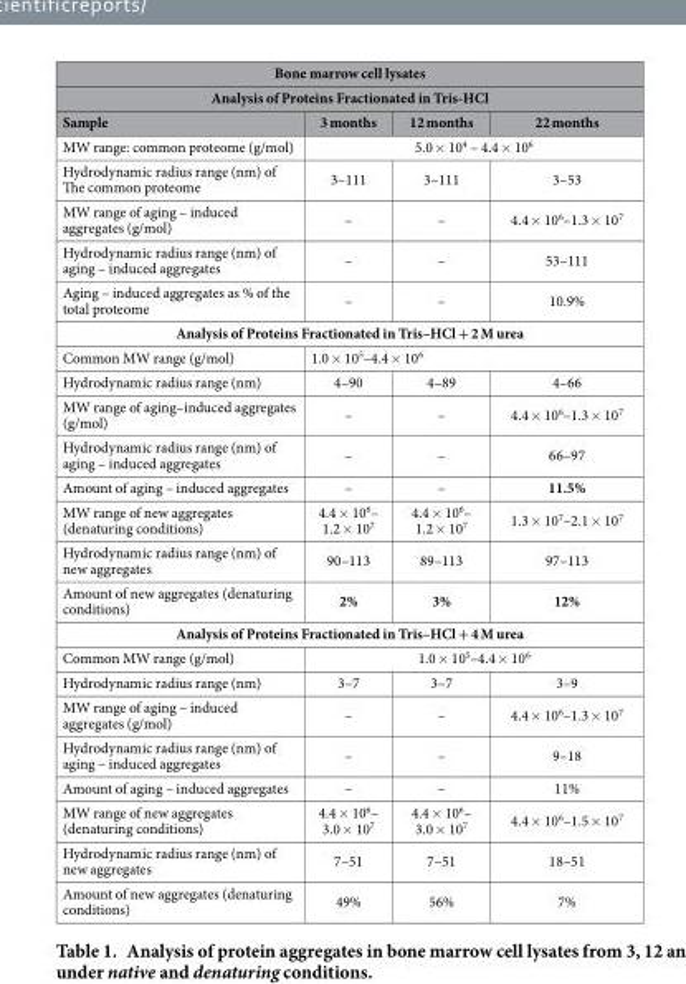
<table><thead><tr><td rowspan="2" colspan="4">Bone marrow cell lysates Analysis of Proteins Fractionated in Tris-HCl</td></tr><tr></tr><tr><td>Sample</td><td>3 months</td><td>12 months</td><td>22 months</td></tr></thead><tbody><tr><td>MW range: common proteome (g/mol)</td><td colspan="3">5.0 × 10<sup>4</sup> – 4.4 × 10<sup>6</sup></td></tr><tr><td>Hydrodynamic radius range (nm) of The common proteome</td><td>3–111</td><td>3–111</td><td>3–53</td></tr><tr><td>MW range of aging – induced aggregates (g/mol)</td><td>–</td><td>–</td><td>4.4 × 10<sup>6</sup>–1.3 × 10<sup>7</sup></td></tr><tr><td>Hydrodynamic radius range (nm) of aging – induced aggregates</td><td>–</td><td>–</td><td>53–111</td></tr><tr><td>Aging – induced aggregates as % of the total proteome</td><td>–</td><td>–</td><td>10.9%</td></tr><tr><td colspan="4">Analysis of Proteins Fractionated in Tris–HCl + 2 M urea</td></tr><tr><td>Common MW range (g/mol)</td><td colspan="3">1.0 × 10<sup>5</sup>–4.4 × 10<sup>6</sup></td></tr><tr><td>Hydrodynamic radius range (nm)</td><td>4–90</td><td>4–89</td><td>4–66</td></tr><tr><td>MW range of aging–induced aggregates (g/mol)</td><td>–</td><td>–</td><td>4.4 × 10<sup>6</sup>–1.3 × 10<sup>7</sup></td></tr><tr><td>Hydrodynamic radius range (nm) of aging – induced aggregates</td><td>–</td><td>–</td><td>66–97</td></tr><tr><td>Amount of aging – induced aggregates</td><td>–</td><td>–</td><td>11.5%</td></tr><tr><td>MW range of new aggregates (denaturing conditions)</td><td>4.4 × 10<sup>6</sup>– 1.2 × 10<sup>7</sup></td><td>4.4 × 10<sup>6</sup>– 1.2 × 10<sup>7</sup></td><td>1.3 × 10<sup>7</sup>–2.1 × 10<sup>7</sup></td></tr><tr><td>Hydrodynamic radius range (nm) of new aggregates</td><td>90–113</td><td>89–113</td><td>97–113</td></tr><tr><td>Amount of new aggregates (denaturing conditions)</td><td>2%</td><td>3%</td><td>12%</td></tr><tr><td colspan="4">Analysis of Proteins Fractionated in Tris–HCl + 4 M urea</td></tr><tr><td>Common MW range (g/mol)</td><td colspan="3">1.0 × 10<sup>5</sup>–4.4 × 10<sup>6</sup></td></tr><tr><td>Hydrodynamic radius range (nm)</td><td>3–7</td><td>3–7</td><td>3–9</td></tr><tr><td>MW range of aging – induced aggregates (g/mol)</td><td>–</td><td>–</td><td>4.4 × 10<sup>6</sup>–1.3 × 10<sup>7</sup></td></tr><tr><td>Hydrodynamic radius range (nm) of aging – induced aggregates</td><td>–</td><td>–</td><td>9–18</td></tr><tr><td>Amount of aging – induced aggregates</td><td>–</td><td>–</td><td>11%</td></tr><tr><td>MW range of new aggregates (denaturing conditions)</td><td>4.4 × 10<sup>6</sup>– 3.0 × 10<sup>7</sup></td><td>4.4 × 10<sup>6</sup>– 3.0 × 10<sup>7</sup></td><td>4.4 × 10<sup>6</sup>–1.5 × 10<sup>7</sup></td></tr><tr><td>Hydrodynamic radius range (nm) of new aggregates</td><td>7–51</td><td>7–51</td><td>18–51</td></tr><tr><td>Amount of new aggregates (denaturing conditions)</td><td>49%</td><td>56%</td><td>7%</td></tr></tbody></table>